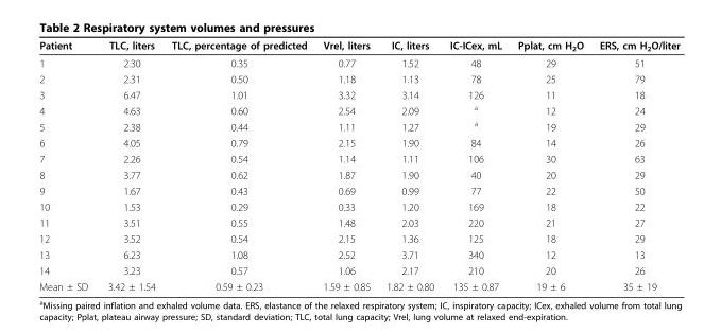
<table><thead><tr><td>Patient</td><td>TLC, liters</td><td>TLC, percentage of predicted</td><td>Vrel, liters</td><td>IC, liters</td><td>IC-ICex, mL</td><td>Pplat, cm H<sub>2</sub>O</td><td>ERS, cm H<sub>2</sub>O/liter</td></tr></thead><tbody><tr><td>1</td><td>2.30</td><td>0.35</td><td>0.77</td><td>1.52</td><td>48</td><td>29</td><td>51</td></tr><tr><td>2</td><td>2.31</td><td>0.50</td><td>1.18</td><td>1.13</td><td>78</td><td>25</td><td>79</td></tr><tr><td>3</td><td>6.47</td><td>1.01</td><td>3.32</td><td>3.14</td><td>126</td><td>11</td><td>18</td></tr><tr><td>4</td><td>4.63</td><td>0.60</td><td>2.54</td><td>2.09</td><td><sup>a</sup></td><td>12</td><td>24</td></tr><tr><td>5</td><td>2.38</td><td>0.44</td><td>1.11</td><td>1.27</td><td><sup>a</sup></td><td>19</td><td>29</td></tr><tr><td>6</td><td>4.05</td><td>0.79</td><td>2.15</td><td>1.90</td><td>84</td><td>14</td><td>26</td></tr><tr><td>7</td><td>2.26</td><td>0.54</td><td>1.14</td><td>1.11</td><td>106</td><td>30</td><td>63</td></tr><tr><td>8</td><td>3.77</td><td>0.62</td><td>1.87</td><td>1.90</td><td>40</td><td>20</td><td>29</td></tr><tr><td>9</td><td>1.67</td><td>0.43</td><td>0.69</td><td>0.99</td><td>77</td><td>22</td><td>50</td></tr><tr><td>10</td><td>1.53</td><td>0.29</td><td>0.33</td><td>1.20</td><td>169</td><td>18</td><td>22</td></tr><tr><td>11</td><td>3.51</td><td>0.55</td><td>1.48</td><td>2.03</td><td>220</td><td>21</td><td>27</td></tr><tr><td>12</td><td>3.52</td><td>0.54</td><td>2.15</td><td>1.36</td><td>125</td><td>18</td><td>29</td></tr><tr><td>13</td><td>6.23</td><td>1.08</td><td>2.52</td><td>3.71</td><td>340</td><td>12</td><td>13</td></tr><tr><td>14</td><td>3.23</td><td>0.57</td><td>1.06</td><td>2.17</td><td>210</td><td>20</td><td>26</td></tr><tr><td>Mean ± SD</td><td>3.42 ± 1.54</td><td>0.59 ± 0.23</td><td>1.59 ± 0.85</td><td>1.82 ± 0.80</td><td>135 ± 0.87</td><td>19 ± 6</td><td>35 ± 19</td></tr></tbody></table>